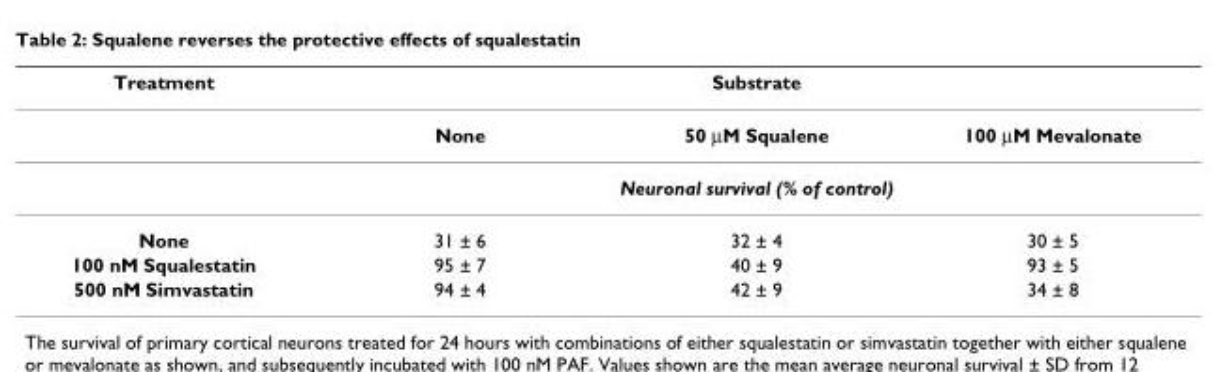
<table><thead><tr><td rowspan="2">Treatment</td><td colspan="3">Substrate</td></tr><tr><td>None</td><td>50 μM Squalene</td><td>100 μM Mevalonate</td></tr></thead><tbody><tr><td></td><td colspan="3">Neuronal survival (% of control)</td></tr><tr><td>None</td><td>31 ± 6</td><td>32 ± 4</td><td>30 ± 5</td></tr><tr><td>100 nM Squalestatin</td><td>95 ± 7</td><td>40 ± 9</td><td>93 ± 5</td></tr><tr><td>500 nM Simvastatin</td><td>94 ± 4</td><td>42 ± 9</td><td>34 ± 8</td></tr></tbody></table>